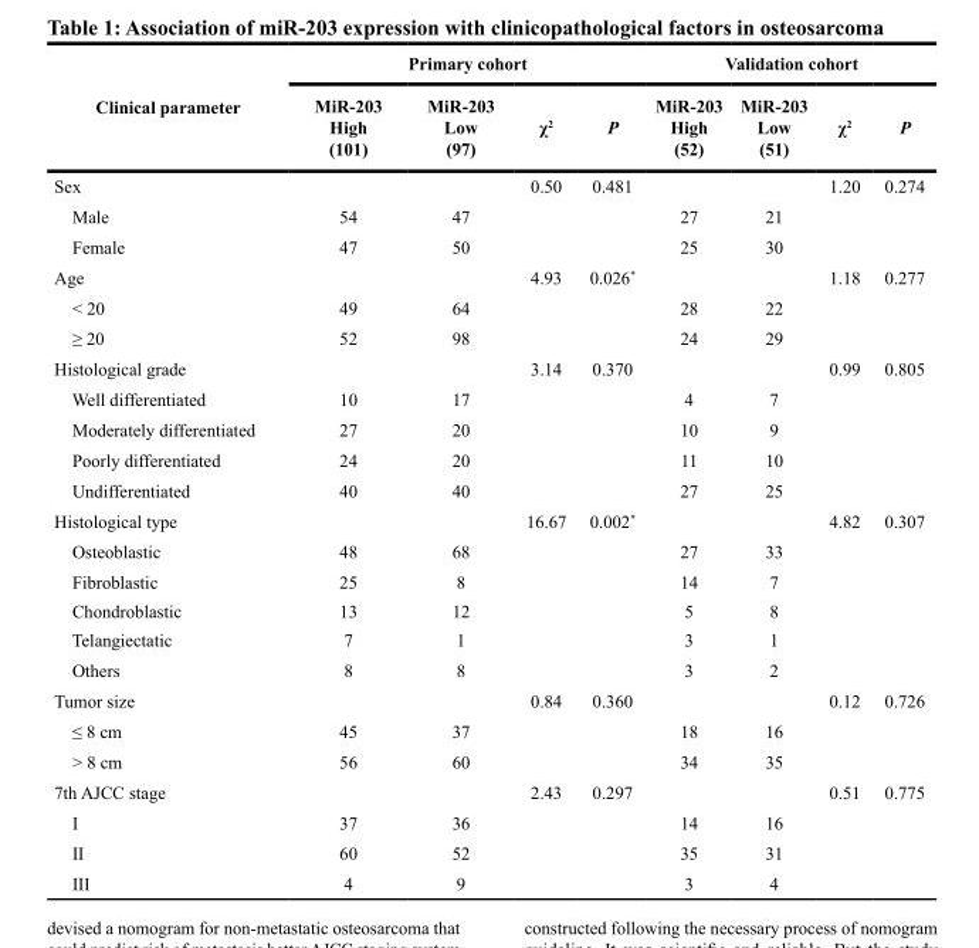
<table><thead><tr><td rowspan="2">Clinical parameter</td><td colspan="4">Primary cohort</td><td colspan="4">Validation cohort</td></tr><tr><td>MiR-203 High (101)</td><td>MiR-203 Low (97)</td><td>χ<sup>2</sup></td><td>P</td><td>MiR-203 High (52)</td><td>MiR-203 Low (51)</td><td>χ<sup>2</sup></td><td>P</td></tr></thead><tbody><tr><td>Sex</td><td></td><td></td><td>0.50</td><td>0.481</td><td></td><td></td><td>1.20</td><td>0.274</td></tr><tr><td>Male</td><td>54</td><td>47</td><td></td><td></td><td>27</td><td>21</td><td></td><td></td></tr><tr><td>Female</td><td>47</td><td>50</td><td></td><td></td><td>25</td><td>30</td><td></td><td></td></tr><tr><td>Age</td><td></td><td></td><td>4.93</td><td>0.026*</td><td></td><td></td><td>1.18</td><td>0.277</td></tr><tr><td>&lt; 20</td><td>49</td><td>64</td><td></td><td></td><td>28</td><td>22</td><td></td><td></td></tr><tr><td>≥ 20</td><td>52</td><td>98</td><td></td><td></td><td>24</td><td>29</td><td></td><td></td></tr><tr><td>Histological grade</td><td></td><td></td><td>3.14</td><td>0.370</td><td></td><td></td><td>0.99</td><td>0.805</td></tr><tr><td>Well differentiated</td><td>10</td><td>17</td><td></td><td></td><td>4</td><td>7</td><td></td><td></td></tr><tr><td>Moderately differentiated</td><td>27</td><td>20</td><td></td><td></td><td>10</td><td>9</td><td></td><td></td></tr><tr><td>Poorly differentiated</td><td>24</td><td>20</td><td></td><td></td><td>11</td><td>10</td><td></td><td></td></tr><tr><td>Undifferentiated</td><td>40</td><td>40</td><td></td><td></td><td>27</td><td>25</td><td></td><td></td></tr><tr><td>Histological type</td><td></td><td></td><td>16.67</td><td>0.002*</td><td></td><td></td><td>4.82</td><td>0.307</td></tr><tr><td>Osteoblastic</td><td>48</td><td>68</td><td></td><td></td><td>27</td><td>33</td><td></td><td></td></tr><tr><td>Fibroblastic</td><td>25</td><td>8</td><td></td><td></td><td>14</td><td>7</td><td></td><td></td></tr><tr><td>Chondroblastic</td><td>13</td><td>12</td><td></td><td></td><td>5</td><td>8</td><td></td><td></td></tr><tr><td>Telangiectatic</td><td>7</td><td>1</td><td></td><td></td><td>3</td><td>1</td><td></td><td></td></tr><tr><td>Others</td><td>8</td><td>8</td><td></td><td></td><td>3</td><td>2</td><td></td><td></td></tr><tr><td>Tumor size</td><td></td><td></td><td>0.84</td><td>0.360</td><td></td><td></td><td>0.12</td><td>0.726</td></tr><tr><td>≤ 8 cm</td><td>45</td><td>37</td><td></td><td></td><td>18</td><td>16</td><td></td><td></td></tr><tr><td>&gt; 8 cm</td><td>56</td><td>60</td><td></td><td></td><td>34</td><td>35</td><td></td><td></td></tr><tr><td>7th AJCC stage</td><td></td><td></td><td>2.43</td><td>0.297</td><td></td><td></td><td>0.51</td><td>0.775</td></tr><tr><td>I</td><td>37</td><td>36</td><td></td><td></td><td>14</td><td>16</td><td></td><td></td></tr><tr><td>II</td><td>60</td><td>52</td><td></td><td></td><td>35</td><td>31</td><td></td><td></td></tr><tr><td>III</td><td>4</td><td>9</td><td></td><td></td><td>3</td><td>4</td><td></td><td></td></tr></tbody></table>